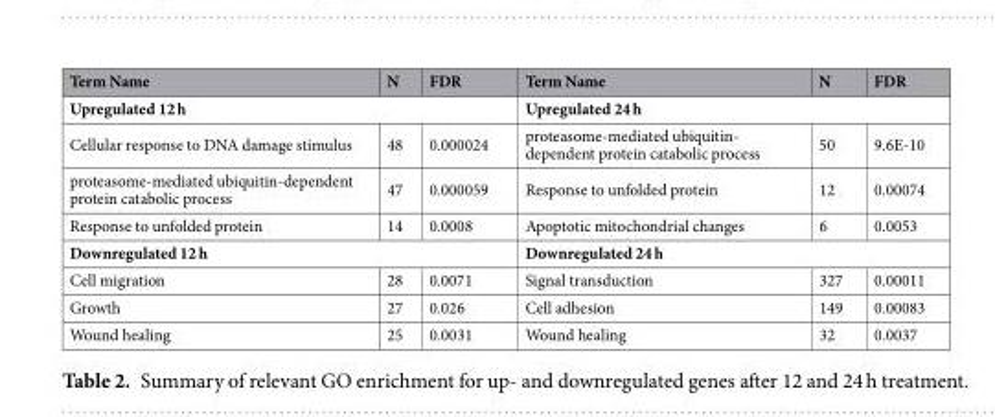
<table><thead><tr><td>Term Name</td><td>N</td><td>FDR</td><td>Term Name</td><td>N</td><td>FDR</td></tr></thead><tbody><tr><td colspan="3">Upregulated 12 h</td><td colspan="3">Upregulated 24 h</td></tr><tr><td>Cellular response to DNA damage stimulus</td><td>48</td><td>0.000024</td><td>proteasome-mediated ubiquitin- dependent protein catabolic process</td><td>50</td><td>9.6E-10</td></tr><tr><td>proteasome-mediated ubiquitin-dependent protein catabolic process</td><td>47</td><td>0.000059</td><td>Response to unfolded protein</td><td>12</td><td>0.00074</td></tr><tr><td>Response to unfolded protein</td><td>14</td><td>0.0008</td><td>Apoptotic mitochondrial changes</td><td>6</td><td>0.0053</td></tr><tr><td colspan="3">Downregulated 12 h</td><td colspan="3">Downregulated 24 h</td></tr><tr><td>Cell migration</td><td>28</td><td>0.0071</td><td>Signal transduction</td><td>327</td><td>0.00011</td></tr><tr><td>Growth</td><td>27</td><td>0.026</td><td>Cell adhesion</td><td>149</td><td>0.00083</td></tr><tr><td>Wound healing</td><td>25</td><td>0.0031</td><td>Wound healing</td><td>32</td><td>0.0037</td></tr></tbody></table>